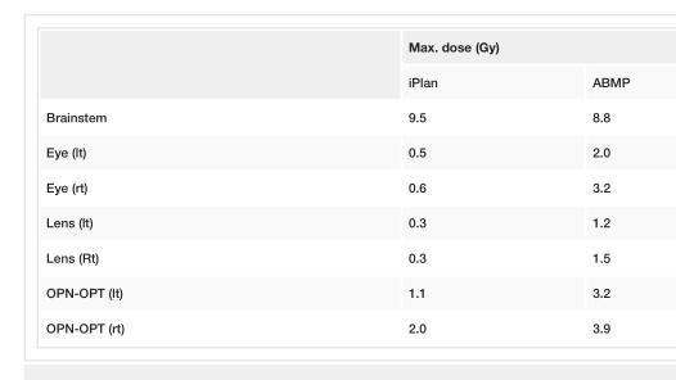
<table><thead><tr><td rowspan="2"></td><td colspan="2">Max. dose (Gy)</td></tr><tr><td>iPlan</td><td>ABMP</td></tr></thead><tbody><tr><td>Brainstem</td><td>9.5</td><td>8.8</td></tr><tr><td>Eye (lt)</td><td>0.5</td><td>2.0</td></tr><tr><td>Eye (rt)</td><td>0.6</td><td>3.2</td></tr><tr><td>Lens (lt)</td><td>0.3</td><td>1.2</td></tr><tr><td>Lens (Rt)</td><td>0.3</td><td>1.5</td></tr><tr><td>OPN-OPT (lt)</td><td>1.1</td><td>3.2</td></tr><tr><td>OPN-OPT (rt)</td><td>2.0</td><td>3.9</td></tr></tbody></table>